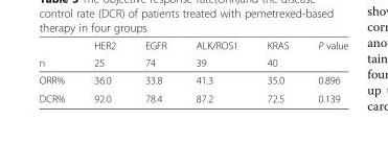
<table><thead><tr><td rowspan="2">n</td><td rowspan="2">HER2 25</td><td rowspan="2">EGFR 74</td><td rowspan="2">ALK/ROS1 39</td><td rowspan="2">KRAS 40</td><td rowspan="2">P value</td></tr><tr></tr></thead><tbody><tr><td>ORR%</td><td>36.0</td><td>33.8</td><td>41.3</td><td>35.0</td><td>0.896</td></tr><tr><td>DCR%</td><td>92.0</td><td>78.4</td><td>87.2</td><td>72.5</td><td>0.139</td></tr></tbody></table>